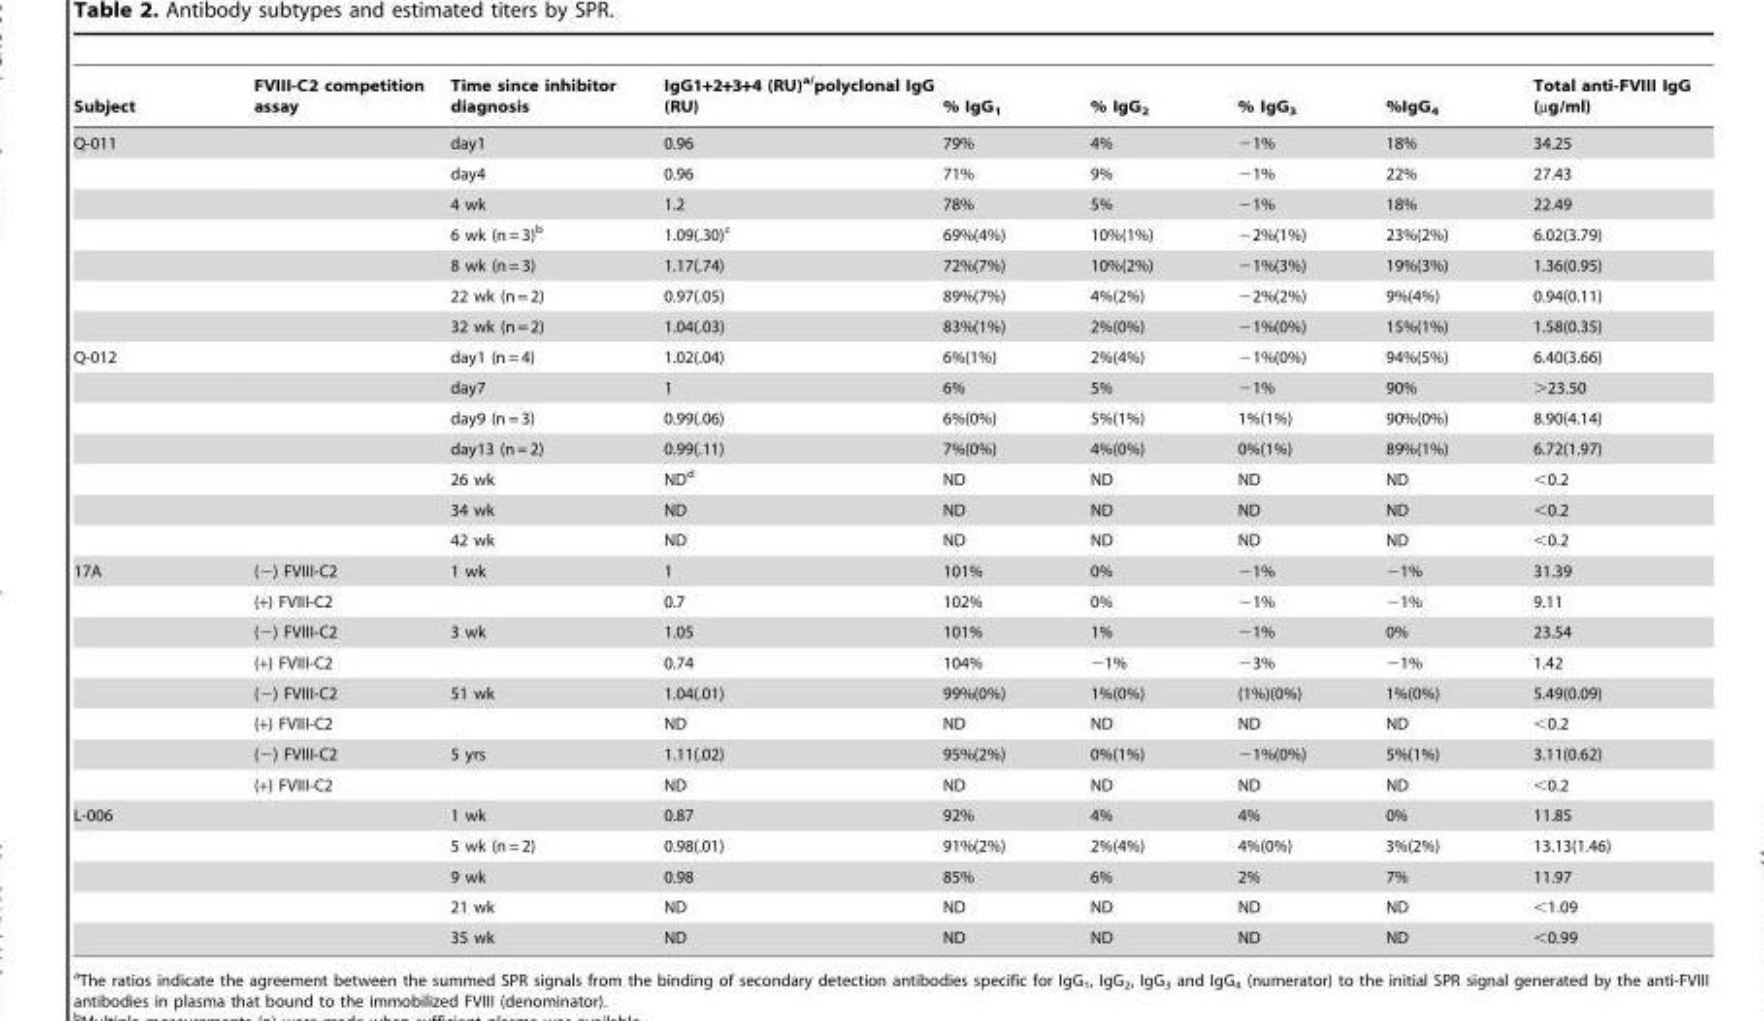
<table><thead><tr><td>Subject</td><td>FVIII-C2 competition assay</td><td>Time since inhibitor diagnosis</td><td>IgG1+2+3+4 (RU)<sup>a/</sup>polyclonal IgG (RU)</td><td>% IgG<sub>1</sub></td><td>% IgG<sub>2</sub></td><td>% IgG<sub>3</sub></td><td>%IgG<sub>4</sub></td><td>Total anti-FVIII IgG (µg/ml)</td></tr></thead><tbody><tr><td rowspan="7">Q-011</td><td></td><td>day1</td><td>0.96</td><td>79%</td><td>4%</td><td>−1%</td><td>18%</td><td>34.25</td></tr><tr><td></td><td>day4</td><td>0.96</td><td>71%</td><td>9%</td><td>−1%</td><td>22%</td><td>27.43</td></tr><tr><td></td><td>4 wk</td><td>1.2</td><td>78%</td><td>5%</td><td>−1%</td><td>18%</td><td>22.49</td></tr><tr><td></td><td>6 wk (n = 3)<sup>b</sup></td><td>1.09(.30)<sup>c</sup></td><td>69%(4%)</td><td>10%(1%)</td><td>−2%(1%)</td><td>23%(2%)</td><td>6.02(3.79)</td></tr><tr><td></td><td>8 wk (n = 3)</td><td>1.17(.74)</td><td>72%(7%)</td><td>10%(2%)</td><td>−1%(3%)</td><td>19%(3%)</td><td>1.36(0.95)</td></tr><tr><td></td><td>22 wk (n = 2)</td><td>0.97(.05)</td><td>89%(7%)</td><td>4%(2%)</td><td>−2%(2%)</td><td>9%(4%)</td><td>0.94(0.11)</td></tr><tr><td></td><td>32 wk (n = 2)</td><td>1.04(.03)</td><td>83%(1%)</td><td>2%(0%)</td><td>−1%(0%)</td><td>15%(1%)</td><td>1.58(0.35)</td></tr><tr><td rowspan="7">Q-012</td><td></td><td>day1 (n = 4)</td><td>1.02(.04)</td><td>6%(1%)</td><td>2%(4%)</td><td>−1%(0%)</td><td>94%(5%)</td><td>6.40(3.66)</td></tr><tr><td></td><td>day7</td><td>1</td><td>6%</td><td>5%</td><td>−1%</td><td>90%</td><td>&gt;23.50</td></tr><tr><td></td><td>day9 (n = 3)</td><td>0.99(.06)</td><td>6%(0%)</td><td>5%(1%)</td><td>1%(1%)</td><td>90%(0%)</td><td>8.90(4.14)</td></tr><tr><td></td><td>day13 (n = 2)</td><td>0.99(.11)</td><td>7%(0%)</td><td>4%(0%)</td><td>0%(1%)</td><td>89%(1%)</td><td>6.72(1.97)</td></tr><tr><td></td><td>26 wk</td><td>ND<sup>d</sup></td><td>ND</td><td>ND</td><td>ND</td><td>ND</td><td>&lt;0.2</td></tr><tr><td></td><td>34 wk</td><td>ND</td><td>ND</td><td>ND</td><td>ND</td><td>ND</td><td>&lt;0.2</td></tr><tr><td></td><td>42 wk</td><td>ND</td><td>ND</td><td>ND</td><td>ND</td><td>ND</td><td>&lt;0.2</td></tr><tr><td rowspan="8">17A</td><td>(−) FVIII-C2</td><td>1 wk</td><td>1</td><td>101%</td><td>0%</td><td>−1%</td><td>−1%</td><td>31.39</td></tr><tr><td>(+) FVIII-C2</td><td></td><td>0.7</td><td>102%</td><td>0%</td><td>−1%</td><td>−1%</td><td>9.11</td></tr><tr><td>(−) FVIII-C2</td><td>3 wk</td><td>1.05</td><td>101%</td><td>1%</td><td>−1%</td><td>0%</td><td>23.54</td></tr><tr><td>(+) FVIII-C2</td><td></td><td>0.74</td><td>104%</td><td>−1%</td><td>−3%</td><td>−1%</td><td>1.42</td></tr><tr><td>(−) FVIII-C2</td><td>51 wk</td><td>1.04(.01)</td><td>99%(0%)</td><td>1%(0%)</td><td>(1%)(0%)</td><td>1%(0%)</td><td>5.49(0.09)</td></tr><tr><td>(+) FVIII-C2</td><td></td><td>ND</td><td>ND</td><td>ND</td><td>ND</td><td>ND</td><td>&lt;0.2</td></tr><tr><td>(−) FVIII-C2</td><td>5 yrs</td><td>1.11(.02)</td><td>95%(2%)</td><td>0%(1%)</td><td>−1%(0%)</td><td>5%(1%)</td><td>3.11(0.62)</td></tr><tr><td>(+) FVIII-C2</td><td></td><td>ND</td><td>ND</td><td>ND</td><td>ND</td><td>ND</td><td>&lt;0.2</td></tr><tr><td rowspan="5">L-006</td><td></td><td>1 wk</td><td>0.87</td><td>92%</td><td>4%</td><td>4%</td><td>0%</td><td>11.85</td></tr><tr><td></td><td>5 wk (n = 2)</td><td>0.98(.01)</td><td>91%(2%)</td><td>2%(4%)</td><td>4%(0%)</td><td>3%(2%)</td><td>13.13(1.46)</td></tr><tr><td></td><td>9 wk</td><td>0.98</td><td>85%</td><td>6%</td><td>2%</td><td>7%</td><td>11.97</td></tr><tr><td></td><td>21 wk</td><td>ND</td><td>ND</td><td>ND</td><td>ND</td><td>ND</td><td>&lt;1.09</td></tr><tr><td></td><td>35 wk</td><td>ND</td><td>ND</td><td>ND</td><td>ND</td><td>ND</td><td>&lt;0.99</td></tr></tbody></table>